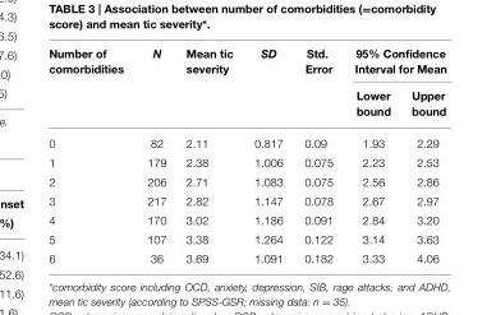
<table><thead><tr><td rowspan="2">Number of comorbidities</td><td rowspan="2">N</td><td rowspan="2">Mean tic severity</td><td rowspan="2">SD</td><td rowspan="2">Std. Error</td><td colspan="2">95% Confidence Interval for Mean</td></tr><tr><td>Lower bound</td><td>Upper bound</td></tr></thead><tbody><tr><td>0</td><td>82</td><td>2.11</td><td>0.817</td><td>0.09</td><td>1.93</td><td>2.29</td></tr><tr><td>1</td><td>179</td><td>2.38</td><td>1.006</td><td>0.075</td><td>2.23</td><td>2.53</td></tr><tr><td>2</td><td>206</td><td>2.71</td><td>1.083</td><td>0.075</td><td>2.56</td><td>2.86</td></tr><tr><td>3</td><td>217</td><td>2.82</td><td>1.147</td><td>0.078</td><td>2.67</td><td>2.97</td></tr><tr><td>4</td><td>170</td><td>3.02</td><td>1.186</td><td>0.091</td><td>2.84</td><td>3.20</td></tr><tr><td>5</td><td>107</td><td>3.38</td><td>1.264</td><td>0.122</td><td>3.14</td><td>3.63</td></tr><tr><td>6</td><td>36</td><td>3.69</td><td>1.091</td><td>0.182</td><td>3.33</td><td>4.06</td></tr></tbody></table>